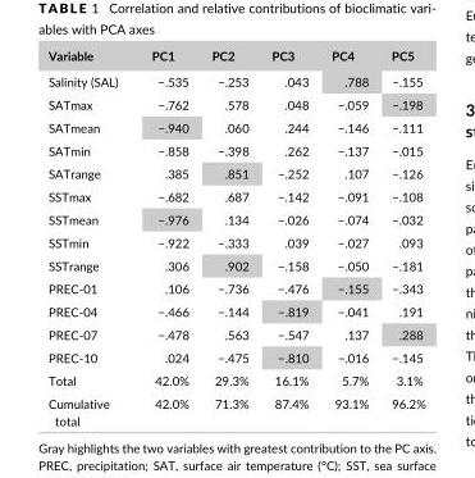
<table><thead><tr><td>Variable</td><td>PC1</td><td>PC2</td><td>PC3</td><td>PC4</td><td>PC5</td></tr></thead><tbody><tr><td>Salinity (SAL)</td><td>−.535</td><td>−.253</td><td>.043</td><td>.788</td><td>−.155</td></tr><tr><td>SATmax</td><td>−.762</td><td>.578</td><td>.048</td><td>−.059</td><td>−.198</td></tr><tr><td>SATmean</td><td>−.940</td><td>.060</td><td>.244</td><td>−.146</td><td>−.111</td></tr><tr><td>SATmin</td><td>−.858</td><td>−.398</td><td>.262</td><td>−.137</td><td>−.015</td></tr><tr><td>SATrange</td><td>.385</td><td>.851</td><td>−.252</td><td>.107</td><td>−.126</td></tr><tr><td>SSTmax</td><td>−.682</td><td>.687</td><td>−.142</td><td>−.091</td><td>−.108</td></tr><tr><td>SSTmean</td><td>−.976</td><td>.134</td><td>−.026</td><td>−.074</td><td>−.032</td></tr><tr><td>SSTmin</td><td>−.922</td><td>−.333</td><td>.039</td><td>−.027</td><td>.093</td></tr><tr><td>SSTrange</td><td>.306</td><td>.902</td><td>−.158</td><td>−.050</td><td>−.181</td></tr><tr><td>PREC- 01</td><td>.106</td><td>−.736</td><td>−.476</td><td>−.155</td><td>−.343</td></tr><tr><td>PREC- 04</td><td>−.466</td><td>−.144</td><td>−.819</td><td>−.041</td><td>.191</td></tr><tr><td>PREC- 07</td><td>−.478</td><td>.563</td><td>−.547</td><td>.137</td><td>.288</td></tr><tr><td>PREC- 10</td><td>.024</td><td>−.475</td><td>−.810</td><td>−.016</td><td>−.145</td></tr><tr><td>Total</td><td>42.0%</td><td>29.3%</td><td>16.1%</td><td>5.7%</td><td>3.1%</td></tr><tr><td>Cumulative total</td><td>42.0%</td><td>71.3%</td><td>87.4%</td><td>93.1%</td><td>96.2%</td></tr></tbody></table>